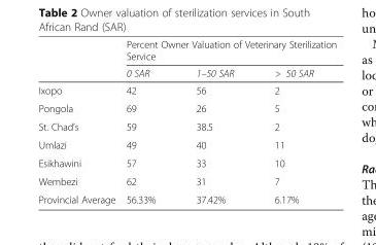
<table><thead><tr><td rowspan="2"></td><td colspan="3">Percent Owner Valuation of Veterinary Sterilization Service</td></tr><tr><td>0 SAR</td><td>1–50 SAR</td><td>&gt; 50 SAR</td></tr></thead><tbody><tr><td>Ixopo</td><td>42</td><td>56</td><td>2</td></tr><tr><td>Pongola</td><td>69</td><td>26</td><td>5</td></tr><tr><td>St. Chad’s</td><td>59</td><td>38.5</td><td>2</td></tr><tr><td>Umlazi</td><td>49</td><td>40</td><td>11</td></tr><tr><td>Esikhawini</td><td>57</td><td>33</td><td>10</td></tr><tr><td>Wembezi</td><td>62</td><td>31</td><td>7</td></tr><tr><td>Provincial Average</td><td>56.33%</td><td>37.42%</td><td>6.17%</td></tr></tbody></table>